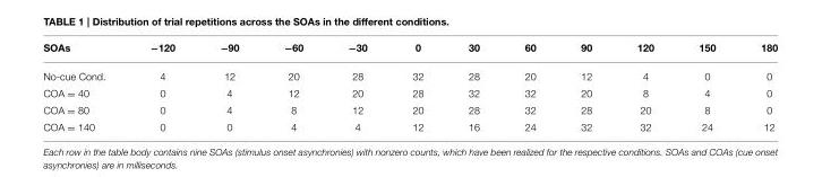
<table><thead><tr><td>SOAs</td><td>−120</td><td>−90</td><td>−60</td><td>−30</td><td>0</td><td>30</td><td>60</td><td>90</td><td>120</td><td>150</td><td>180</td></tr></thead><tbody><tr><td>No-cue Cond.</td><td>4</td><td>12</td><td>20</td><td>28</td><td>32</td><td>28</td><td>20</td><td>12</td><td>4</td><td>0</td><td>0</td></tr><tr><td>COA = 40</td><td>0</td><td>4</td><td>12</td><td>20</td><td>28</td><td>32</td><td>32</td><td>20</td><td>8</td><td>4</td><td>0</td></tr><tr><td>COA = 80</td><td>0</td><td>4</td><td>8</td><td>12</td><td>20</td><td>28</td><td>32</td><td>28</td><td>20</td><td>8</td><td>0</td></tr><tr><td>COA = 140</td><td>0</td><td>0</td><td>4</td><td>4</td><td>12</td><td>16</td><td>24</td><td>32</td><td>32</td><td>24</td><td>12</td></tr></tbody></table>